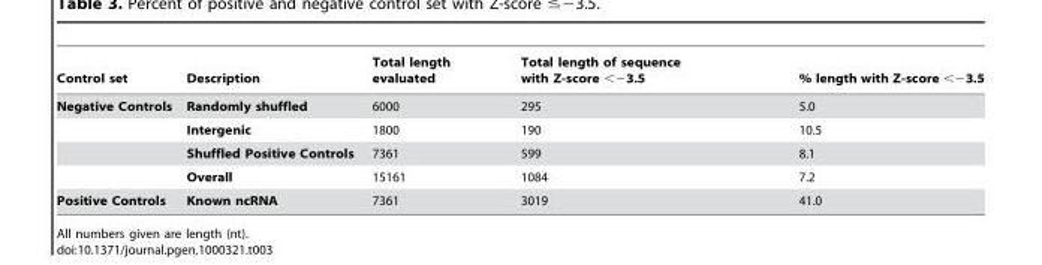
<table><thead><tr><td>Control set</td><td>Description</td><td>Total length evaluated</td><td>Total length of sequence with Z-score &lt;−3.5</td><td>% length with Z-score &lt;−3.5</td></tr></thead><tbody><tr><td rowspan="4">Negative Controls</td><td>Randomly shuffled</td><td>6000</td><td>295</td><td>5.0</td></tr><tr><td>Intergenic</td><td>1800</td><td>190</td><td>10.5</td></tr><tr><td>Shuffled Positive Controls</td><td>7361</td><td>599</td><td>8.1</td></tr><tr><td>Overall</td><td>15161</td><td>1084</td><td>7.2</td></tr><tr><td>Positive Controls</td><td>Known ncRNA</td><td>7361</td><td>3019</td><td>41.0</td></tr></tbody></table>